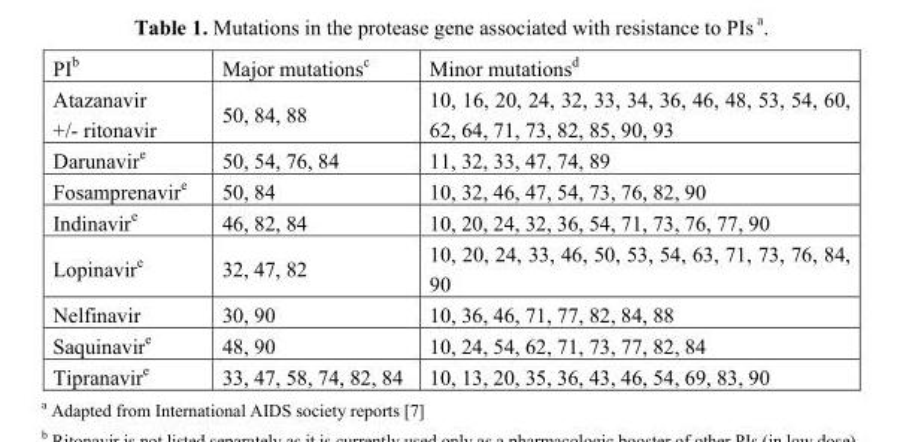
<table><thead><tr><td>PI<sup>b</sup></td><td>Major mutations<sup>c</sup></td><td>Minor mutations<sup>d</sup></td></tr></thead><tbody><tr><td>Atazanavir +/- ritonavir</td><td>50, 84, 88</td><td>10, 16, 20, 24, 32, 33, 34, 36, 46, 48, 53, 54, 60, 62, 64, 71, 73, 82, 85, 90, 93</td></tr><tr><td>Darunavir<sup>e</sup></td><td>50, 54, 76, 84</td><td>11, 32, 33, 47, 74, 89</td></tr><tr><td>Fosamprenavir<sup>e</sup></td><td>50, 84</td><td>10, 32, 46, 47, 54, 73, 76, 82, 90</td></tr><tr><td>Indinavir<sup>e</sup></td><td>46, 82, 84</td><td>10, 20, 24, 32, 36, 54, 71, 73, 76, 77, 90</td></tr><tr><td>Lopinavir<sup>e</sup></td><td>32, 47, 82</td><td>10, 20, 24, 33, 46, 50, 53, 54, 63, 71, 73, 76, 84, 90</td></tr><tr><td>Nelfinavir</td><td>30, 90</td><td>10, 36, 46, 71, 77, 82, 84, 88</td></tr><tr><td>Saquinavir<sup>e</sup></td><td>48, 90</td><td>10, 24, 54, 62, 71, 73, 77, 82, 84</td></tr><tr><td>Tipranavir<sup>e</sup></td><td>33, 47, 58, 74, 82, 84</td><td>10, 13, 20, 35, 36, 43, 46, 54, 69, 83, 90</td></tr></tbody></table>